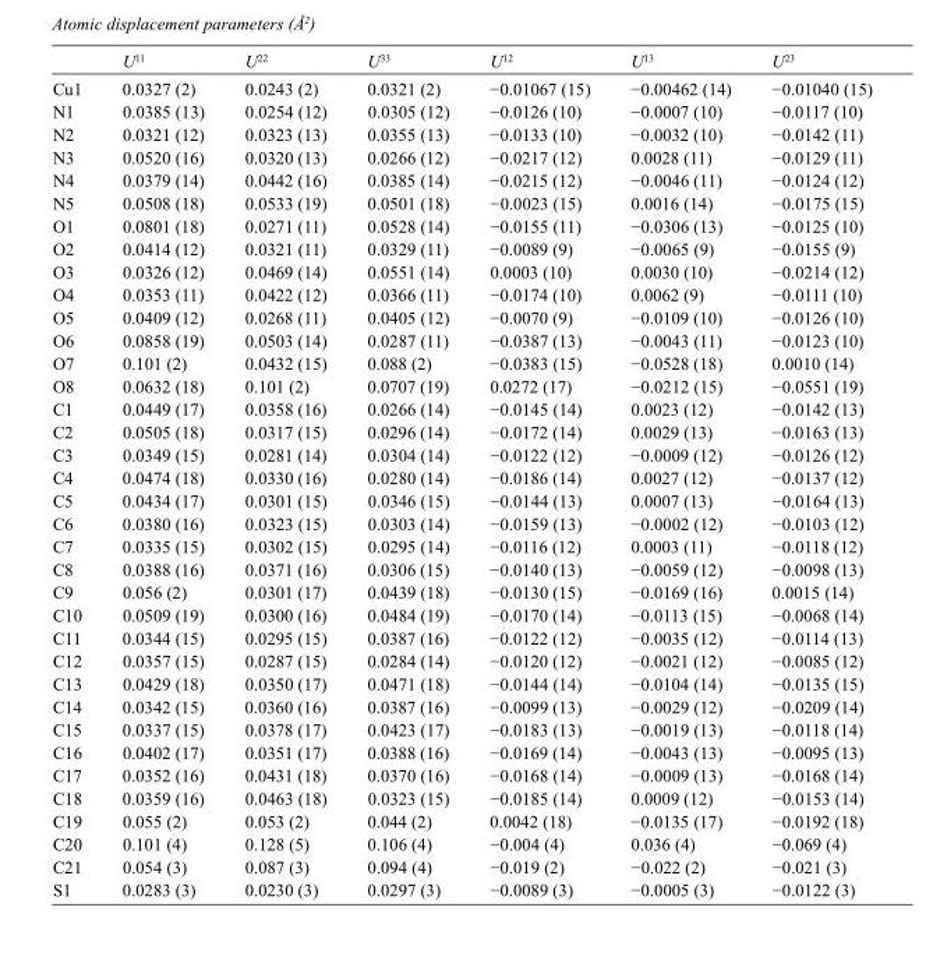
<table><thead><tr><td></td><td>U<sup>11</sup></td><td>U<sup>22</sup></td><td>U<sup>33</sup></td><td>U<sup>12</sup></td><td>U<sup>13</sup></td><td>U<sup>23</sup></td></tr></thead><tbody><tr><td>Cu1</td><td>0.0327 (2)</td><td>0.0243 (2)</td><td>0.0321 (2)</td><td>−0.01067 (15)</td><td>−0.00462 (14)</td><td>−0.01040 (15)</td></tr><tr><td>N1</td><td>0.0385 (13)</td><td>0.0254 (12)</td><td>0.0305 (12)</td><td>−0.0126 (10)</td><td>−0.0007 (10)</td><td>−0.0117 (10)</td></tr><tr><td>N2</td><td>0.0321 (12)</td><td>0.0323 (13)</td><td>0.0355 (13)</td><td>−0.0133 (10)</td><td>−0.0032 (10)</td><td>−0.0142 (11)</td></tr><tr><td>N3</td><td>0.0520 (16)</td><td>0.0320 (13)</td><td>0.0266 (12)</td><td>−0.0217 (12)</td><td>0.0028 (11)</td><td>−0.0129 (11)</td></tr><tr><td>N4</td><td>0.0379 (14)</td><td>0.0442 (16)</td><td>0.0385 (14)</td><td>−0.0215 (12)</td><td>−0.0046 (11)</td><td>−0.0124 (12)</td></tr><tr><td>N5</td><td>0.0508 (18)</td><td>0.0533 (19)</td><td>0.0501 (18)</td><td>−0.0023 (15)</td><td>0.0016 (14)</td><td>−0.0175 (15)</td></tr><tr><td>O1</td><td>0.0801 (18)</td><td>0.0271 (11)</td><td>0.0528 (14)</td><td>−0.0155 (11)</td><td>−0.0306 (13)</td><td>−0.0125 (10)</td></tr><tr><td>O2</td><td>0.0414 (12)</td><td>0.0321 (11)</td><td>0.0329 (11)</td><td>−0.0089 (9)</td><td>−0.0065 (9)</td><td>−0.0155 (9)</td></tr><tr><td>O3</td><td>0.0326 (12)</td><td>0.0469 (14)</td><td>0.0551 (14)</td><td>0.0003 (10)</td><td>0.0030 (10)</td><td>−0.0214 (12)</td></tr><tr><td>O4</td><td>0.0353 (11)</td><td>0.0422 (12)</td><td>0.0366 (11)</td><td>−0.0174 (10)</td><td>0.0062 (9)</td><td>−0.0111 (10)</td></tr><tr><td>O5</td><td>0.0409 (12)</td><td>0.0268 (11)</td><td>0.0405 (12)</td><td>−0.0070 (9)</td><td>−0.0109 (10)</td><td>−0.0126 (10)</td></tr><tr><td>O6</td><td>0.0858 (19)</td><td>0.0503 (14)</td><td>0.0287 (11)</td><td>−0.0387 (13)</td><td>−0.0043 (11)</td><td>−0.0123 (10)</td></tr><tr><td>O7</td><td>0.101 (2)</td><td>0.0432 (15)</td><td>0.088 (2)</td><td>−0.0383 (15)</td><td>−0.0528 (18)</td><td>0.0010 (14)</td></tr><tr><td>O8</td><td>0.0632 (18)</td><td>0.101 (2)</td><td>0.0707 (19)</td><td>0.0272 (17)</td><td>−0.0212 (15)</td><td>−0.0551 (19)</td></tr><tr><td>C1</td><td>0.0449 (17)</td><td>0.0358 (16)</td><td>0.0266 (14)</td><td>−0.0145 (14)</td><td>0.0023 (12)</td><td>−0.0142 (13)</td></tr><tr><td>C2</td><td>0.0505 (18)</td><td>0.0317 (15)</td><td>0.0296 (14)</td><td>−0.0172 (14)</td><td>0.0029 (13)</td><td>−0.0163 (13)</td></tr><tr><td>C3</td><td>0.0349 (15)</td><td>0.0281 (14)</td><td>0.0304 (14)</td><td>−0.0122 (12)</td><td>−0.0009 (12)</td><td>−0.0126 (12)</td></tr><tr><td>C4</td><td>0.0474 (18)</td><td>0.0330 (16)</td><td>0.0280 (14)</td><td>−0.0186 (14)</td><td>0.0027 (12)</td><td>−0.0137 (12)</td></tr><tr><td>C5</td><td>0.0434 (17)</td><td>0.0301 (15)</td><td>0.0346 (15)</td><td>−0.0144 (13)</td><td>0.0007 (13)</td><td>−0.0164 (13)</td></tr><tr><td>C6</td><td>0.0380 (16)</td><td>0.0323 (15)</td><td>0.0303 (14)</td><td>−0.0159 (13)</td><td>−0.0002 (12)</td><td>−0.0103 (12)</td></tr><tr><td>C7</td><td>0.0335 (15)</td><td>0.0302 (15)</td><td>0.0295 (14)</td><td>−0.0116 (12)</td><td>0.0003 (11)</td><td>−0.0118 (12)</td></tr><tr><td>C8</td><td>0.0388 (16)</td><td>0.0371 (16)</td><td>0.0306 (15)</td><td>−0.0140 (13)</td><td>−0.0059 (12)</td><td>−0.0098 (13)</td></tr><tr><td>C9</td><td>0.056 (2)</td><td>0.0301 (17)</td><td>0.0439 (18)</td><td>−0.0130 (15)</td><td>−0.0169 (16)</td><td>0.0015 (14)</td></tr><tr><td>C10</td><td>0.0509 (19)</td><td>0.0300 (16)</td><td>0.0484 (19)</td><td>−0.0170 (14)</td><td>−0.0113 (15)</td><td>−0.0068 (14)</td></tr><tr><td>C11</td><td>0.0344 (15)</td><td>0.0295 (15)</td><td>0.0387 (16)</td><td>−0.0122 (12)</td><td>−0.0035 (12)</td><td>−0.0114 (13)</td></tr><tr><td>C12</td><td>0.0357 (15)</td><td>0.0287 (15)</td><td>0.0284 (14)</td><td>−0.0120 (12)</td><td>−0.0021 (12)</td><td>−0.0085 (12)</td></tr><tr><td>C13</td><td>0.0429 (18)</td><td>0.0350 (17)</td><td>0.0471 (18)</td><td>−0.0144 (14)</td><td>−0.0104 (14)</td><td>−0.0135 (15)</td></tr><tr><td>C14</td><td>0.0342 (15)</td><td>0.0360 (16)</td><td>0.0387 (16)</td><td>−0.0099 (13)</td><td>−0.0029 (12)</td><td>−0.0209 (14)</td></tr><tr><td>C15</td><td>0.0337 (15)</td><td>0.0378 (17)</td><td>0.0423 (17)</td><td>−0.0183 (13)</td><td>−0.0019 (13)</td><td>−0.0118 (14)</td></tr><tr><td>C16</td><td>0.0402 (17)</td><td>0.0351 (17)</td><td>0.0388 (16)</td><td>−0.0169 (14)</td><td>−0.0043 (13)</td><td>−0.0095 (13)</td></tr><tr><td>C17</td><td>0.0352 (16)</td><td>0.0431 (18)</td><td>0.0370 (16)</td><td>−0.0168 (14)</td><td>−0.0009 (13)</td><td>−0.0168 (14)</td></tr><tr><td>C18</td><td>0.0359 (16)</td><td>0.0463 (18)</td><td>0.0323 (15)</td><td>−0.0185 (14)</td><td>0.0009 (12)</td><td>−0.0153 (14)</td></tr><tr><td>C19</td><td>0.055 (2)</td><td>0.053 (2)</td><td>0.044 (2)</td><td>0.0042 (18)</td><td>−0.0135 (17)</td><td>−0.0192 (18)</td></tr><tr><td>C20</td><td>0.101 (4)</td><td>0.128 (5)</td><td>0.106 (4)</td><td>−0.004 (4)</td><td>0.036 (4)</td><td>−0.069 (4)</td></tr><tr><td>C21</td><td>0.054 (3)</td><td>0.087 (3)</td><td>0.094 (4)</td><td>−0.019 (2)</td><td>−0.022 (2)</td><td>−0.021 (3)</td></tr><tr><td>S1</td><td>0.0283 (3)</td><td>0.0230 (3)</td><td>0.0297 (3)</td><td>−0.0089 (3)</td><td>−0.0005 (3)</td><td>−0.0122 (3)</td></tr></tbody></table>